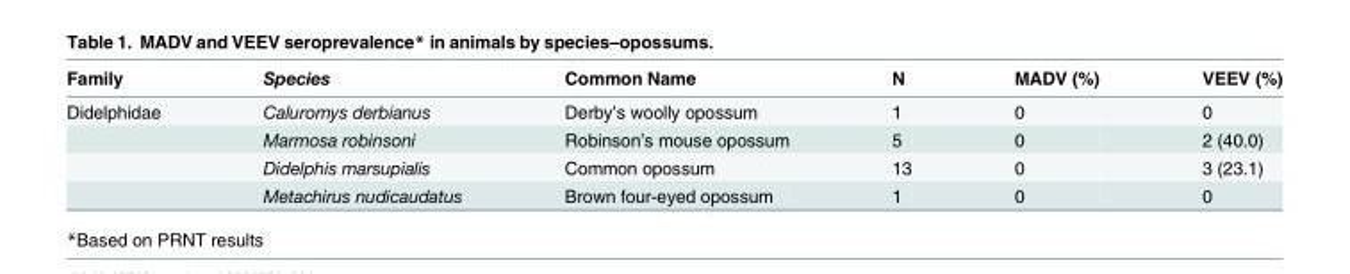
<table><thead><tr><td>Family</td><td>Species</td><td>Common Name</td><td>N</td><td>MADV (%)</td><td>VEEV (%)</td></tr></thead><tbody><tr><td rowspan="4">Didelphidae</td><td>Caluromys derbianus</td><td>Derby’s woolly opossum</td><td>1</td><td>0</td><td>0</td></tr><tr><td>Marmosa robinsoni</td><td>Robinson’s mouse opossum</td><td>5</td><td>0</td><td>2 (40.0)</td></tr><tr><td>Didelphis marsupialis</td><td>Common opossum</td><td>13</td><td>0</td><td>3 (23.1)</td></tr><tr><td>Metachirus nudicaudatus</td><td>Brown four-eyed opossum</td><td>1</td><td>0</td><td>0</td></tr></tbody></table>